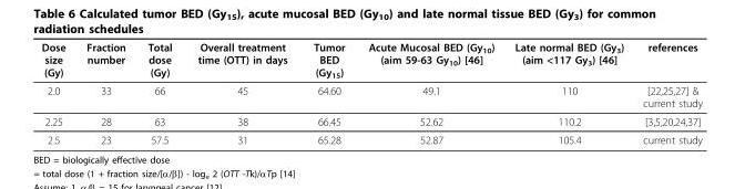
<table><thead><tr><td>Dose size (Gy)</td><td>Fraction number</td><td>Total dose (Gy)</td><td>Overall treatment time (OTT) in days</td><td>Tumor BED (Gy<sub>15</sub>)</td><td>Acute Mucosal BED (Gy<sub>10</sub>) (aim 59-63 Gy<sub>10</sub>) [46]</td><td>Late normal BED (Gy<sub>3</sub>) (aim &lt;117 Gy<sub>3</sub>) [46]</td><td>references</td></tr></thead><tbody><tr><td>2.0</td><td>33</td><td>66</td><td>45</td><td>64.60</td><td>49.1</td><td>110</td><td>[22,25,27] &amp; current study</td></tr><tr><td>2.25</td><td>28</td><td>63</td><td>38</td><td>66.45</td><td>52.62</td><td>110.2</td><td>[3,5,20,24,37]</td></tr><tr><td>2.5</td><td>23</td><td>57.5</td><td>31</td><td>65.28</td><td>52.87</td><td>105.4</td><td>current study</td></tr></tbody></table>